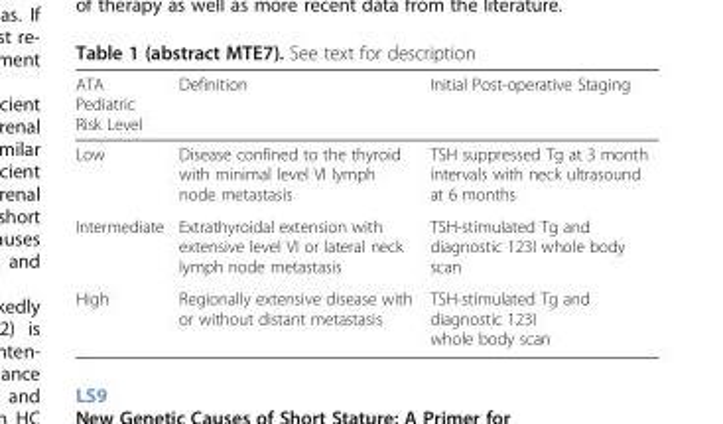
<table><thead><tr><td>ATA Pediatric Risk Level</td><td>Definition</td><td>Initial Post-operative Staging</td></tr></thead><tbody><tr><td>Low</td><td>Disease confined to the thyroid with minimal level VI lymph node metastasis</td><td>TSH suppressed Tg at 3 month intervals with neck ultrasound at 6 months</td></tr><tr><td>Intermediate</td><td>Extrathyroidal extension with extensive level VI or lateral neck lymph node metastasis</td><td>TSH-stimulated Tg and diagnostic 123I whole body scan</td></tr><tr><td>High</td><td>Regionally extensive disease with or without distant metastasis</td><td>TSH-stimulated Tg and diagnostic 123I whole body scan</td></tr></tbody></table>